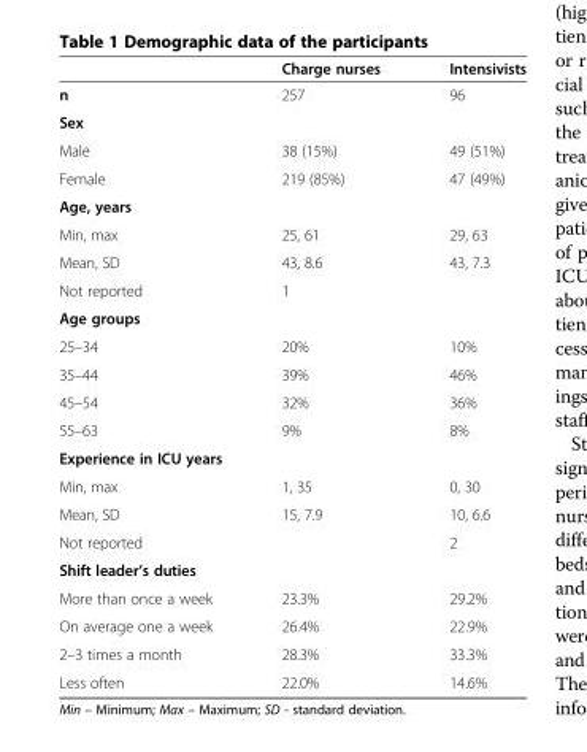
<table><thead><tr><td></td><td>Charge nurses</td><td>Intensivists</td></tr></thead><tbody><tr><td>n</td><td>257</td><td>96</td></tr><tr><td colspan="3">Sex</td></tr><tr><td>Male</td><td>38 (15%)</td><td>49 (51%)</td></tr><tr><td>Female</td><td>219 (85%)</td><td>47 (49%)</td></tr><tr><td colspan="3">Age, years</td></tr><tr><td>Min, max</td><td>25, 61</td><td>29, 63</td></tr><tr><td>Mean, SD</td><td>43, 8.6</td><td>43, 7.3</td></tr><tr><td>Not reported</td><td>1</td><td></td></tr><tr><td colspan="3">Age groups</td></tr><tr><td>25–34</td><td>20%</td><td>10%</td></tr><tr><td>35–44</td><td>39%</td><td>46%</td></tr><tr><td>45–54</td><td>32%</td><td>36%</td></tr><tr><td>55–63</td><td>9%</td><td>8%</td></tr><tr><td colspan="3">Experience in ICU years</td></tr><tr><td>Min, max</td><td>1, 35</td><td>0, 30</td></tr><tr><td>Mean, SD</td><td>15, 7.9</td><td>10, 6.6</td></tr><tr><td>Not reported</td><td></td><td>2</td></tr><tr><td colspan="3">Shift leader’s duties</td></tr><tr><td>More than once a week</td><td>23.3%</td><td>29.2%</td></tr><tr><td>On average one a week</td><td>26.4%</td><td>22.9%</td></tr><tr><td>2–3 times a month</td><td>28.3%</td><td>33.3%</td></tr><tr><td>Less often</td><td>22.0%</td><td>14.6%</td></tr></tbody></table>